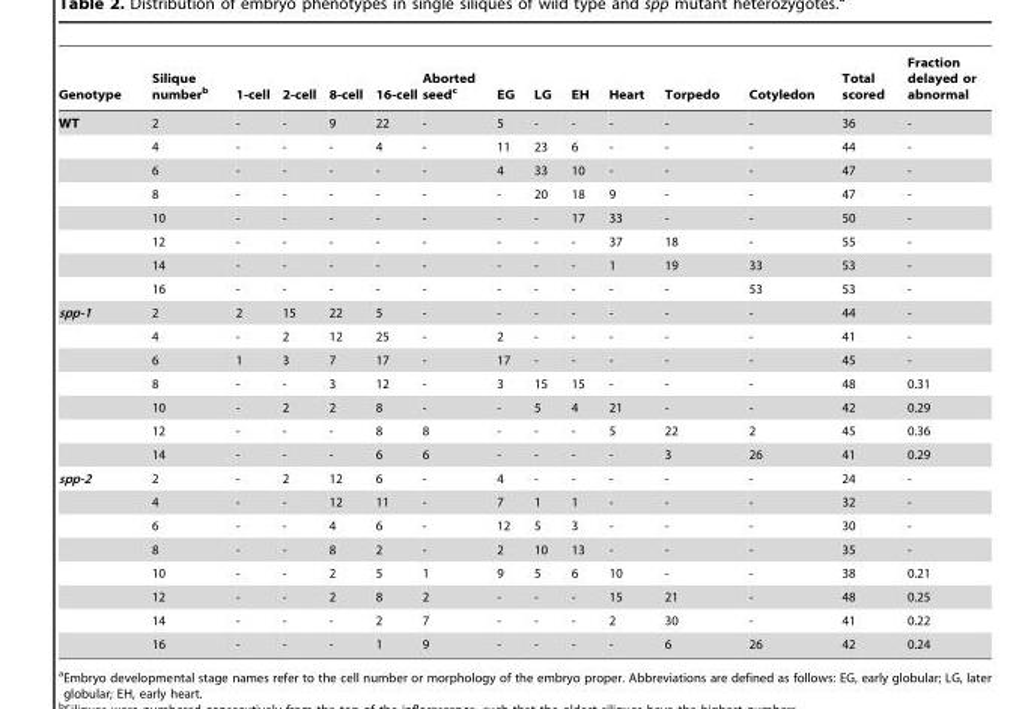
<table><thead><tr><td>Genotype</td><td>Silique number<sup>b</sup></td><td>1-cell</td><td>2-cell</td><td>8-cell</td><td>16-cell</td><td>Aborted seed<sup>c</sup></td><td>EG</td><td>LG</td><td>EH</td><td>Heart</td><td>Torpedo</td><td>Cotyledon</td><td>Total scored</td><td>Fraction delayed or abnormal</td></tr></thead><tbody><tr><td rowspan="8">WT</td><td>2</td><td>-</td><td>-</td><td>9</td><td>22</td><td>-</td><td>5</td><td>-</td><td>-</td><td>-</td><td>-</td><td>-</td><td>36</td><td>-</td></tr><tr><td>4</td><td>-</td><td>-</td><td>-</td><td>4</td><td>-</td><td>11</td><td>23</td><td>6</td><td>-</td><td>-</td><td>-</td><td>44</td><td>-</td></tr><tr><td>6</td><td>-</td><td>-</td><td>-</td><td>-</td><td>-</td><td>4</td><td>33</td><td>10</td><td>-</td><td>-</td><td>-</td><td>47</td><td>-</td></tr><tr><td>8</td><td>-</td><td>-</td><td>-</td><td>-</td><td>-</td><td>-</td><td>20</td><td>18</td><td>9</td><td>-</td><td>-</td><td>47</td><td>-</td></tr><tr><td>10</td><td>-</td><td>-</td><td>-</td><td>-</td><td>-</td><td>-</td><td>-</td><td>17</td><td>33</td><td>-</td><td>-</td><td>50</td><td>-</td></tr><tr><td>12</td><td>-</td><td>-</td><td>-</td><td>-</td><td>-</td><td>-</td><td>-</td><td>-</td><td>37</td><td>18</td><td>-</td><td>55</td><td>-</td></tr><tr><td>14</td><td>-</td><td>-</td><td>-</td><td>-</td><td>-</td><td>-</td><td>-</td><td>-</td><td>1</td><td>19</td><td>33</td><td>53</td><td>-</td></tr><tr><td>16</td><td>-</td><td>-</td><td>-</td><td>-</td><td>-</td><td>-</td><td>-</td><td>-</td><td>-</td><td>-</td><td>53</td><td>53</td><td>-</td></tr><tr><td rowspan="7">spp-1</td><td>2</td><td>2</td><td>15</td><td>22</td><td>5</td><td>-</td><td>-</td><td>-</td><td>-</td><td>-</td><td>-</td><td>-</td><td>44</td><td>-</td></tr><tr><td>4</td><td>-</td><td>2</td><td>12</td><td>25</td><td>-</td><td>2</td><td>-</td><td>-</td><td>-</td><td>-</td><td>-</td><td>41</td><td>-</td></tr><tr><td>6</td><td>1</td><td>3</td><td>7</td><td>17</td><td>-</td><td>17</td><td>-</td><td>-</td><td>-</td><td>-</td><td>-</td><td>45</td><td>-</td></tr><tr><td>8</td><td>-</td><td>-</td><td>3</td><td>12</td><td>-</td><td>3</td><td>15</td><td>15</td><td>-</td><td>-</td><td>-</td><td>48</td><td>0.31</td></tr><tr><td>10</td><td>-</td><td>2</td><td>2</td><td>8</td><td>-</td><td>-</td><td>5</td><td>4</td><td>21</td><td>-</td><td>-</td><td>42</td><td>0.29</td></tr><tr><td>12</td><td>-</td><td>-</td><td>-</td><td>8</td><td>8</td><td>-</td><td>-</td><td>-</td><td>5</td><td>22</td><td>2</td><td>45</td><td>0.36</td></tr><tr><td>14</td><td>-</td><td>-</td><td>-</td><td>6</td><td>6</td><td>-</td><td>-</td><td>-</td><td>-</td><td>3</td><td>26</td><td>41</td><td>0.29</td></tr><tr><td rowspan="8">spp-2</td><td>2</td><td>-</td><td>2</td><td>12</td><td>6</td><td>-</td><td>4</td><td>-</td><td>-</td><td>-</td><td>-</td><td>-</td><td>24</td><td>-</td></tr><tr><td>4</td><td>-</td><td>-</td><td>12</td><td>11</td><td>-</td><td>7</td><td>1</td><td>1</td><td>-</td><td>-</td><td>-</td><td>32</td><td>-</td></tr><tr><td>6</td><td>-</td><td>-</td><td>4</td><td>6</td><td>-</td><td>12</td><td>5</td><td>3</td><td>-</td><td>-</td><td>-</td><td>30</td><td>-</td></tr><tr><td>8</td><td>-</td><td>-</td><td>8</td><td>2</td><td>-</td><td>2</td><td>10</td><td>13</td><td>-</td><td>-</td><td>-</td><td>35</td><td>-</td></tr><tr><td>10</td><td>-</td><td>-</td><td>2</td><td>5</td><td>1</td><td>9</td><td>5</td><td>6</td><td>10</td><td>-</td><td>-</td><td>38</td><td>0.21</td></tr><tr><td>12</td><td>-</td><td>-</td><td>2</td><td>8</td><td>2</td><td>-</td><td>-</td><td>-</td><td>15</td><td>21</td><td>-</td><td>48</td><td>0.25</td></tr><tr><td>14</td><td>-</td><td>-</td><td>-</td><td>2</td><td>7</td><td>-</td><td>-</td><td>-</td><td>2</td><td>30</td><td>-</td><td>41</td><td>0.22</td></tr><tr><td>16</td><td>-</td><td>-</td><td>-</td><td>1</td><td>9</td><td>-</td><td>-</td><td>-</td><td>-</td><td>6</td><td>26</td><td>42</td><td>0.24</td></tr></tbody></table>